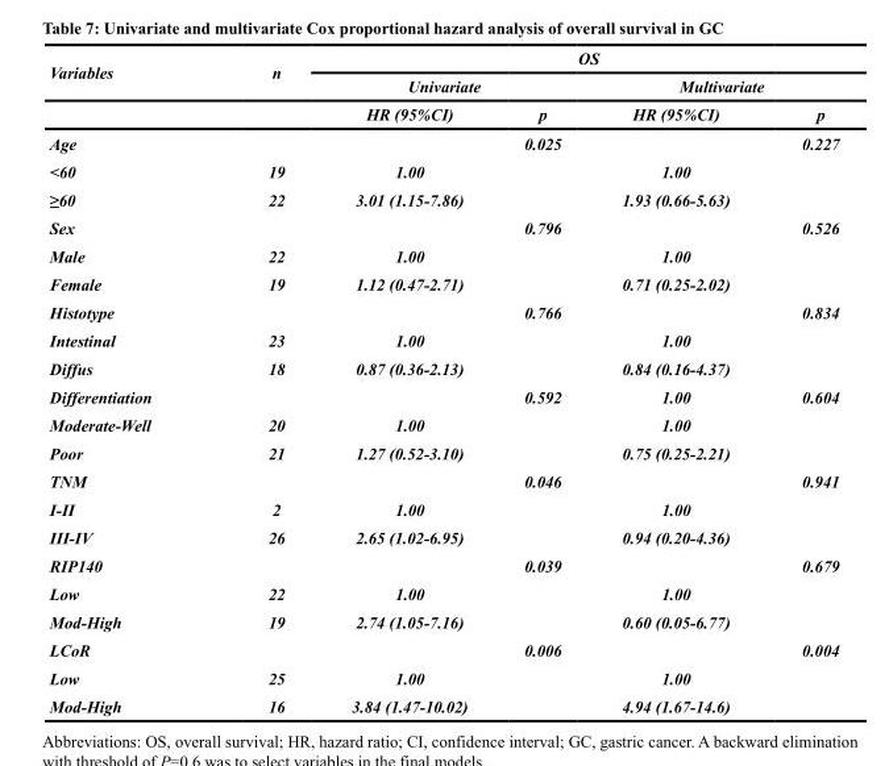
<table><thead><tr><td rowspan="3">Variables</td><td rowspan="3">n</td><td colspan="4">OS</td></tr><tr><td colspan="2">Univariate</td><td colspan="2">Multivariate</td></tr><tr><td>HR (95%CI)</td><td>p</td><td>HR (95%CI)</td><td>p</td></tr></thead><tbody><tr><td>Age</td><td></td><td></td><td>0.025</td><td></td><td>0.227</td></tr><tr><td>&lt;60</td><td>19</td><td>1.00</td><td></td><td>1.00</td><td></td></tr><tr><td>≥60</td><td>22</td><td>3.01 (1.15-7.86)</td><td></td><td>1.93 (0.66-5.63)</td><td></td></tr><tr><td>Sex</td><td></td><td></td><td>0.796</td><td></td><td>0.526</td></tr><tr><td>Male</td><td>22</td><td>1.00</td><td></td><td>1.00</td><td></td></tr><tr><td>Female</td><td>19</td><td>1.12 (0.47-2.71)</td><td></td><td>0.71 (0.25-2.02)</td><td></td></tr><tr><td>Histotype</td><td></td><td></td><td>0.766</td><td></td><td>0.834</td></tr><tr><td>Intestinal</td><td>23</td><td>1.00</td><td></td><td>1.00</td><td></td></tr><tr><td>Diffus</td><td>18</td><td>0.87 (0.36-2.13)</td><td></td><td>0.84 (0.16-4.37)</td><td></td></tr><tr><td>Differentiation</td><td></td><td></td><td>0.592</td><td>1.00</td><td>0.604</td></tr><tr><td>Moderate-Well</td><td>20</td><td>1.00</td><td></td><td>1.00</td><td></td></tr><tr><td>Poor</td><td>21</td><td>1.27 (0.52-3.10)</td><td></td><td>0.75 (0.25-2.21)</td><td></td></tr><tr><td>TNM</td><td></td><td></td><td>0.046</td><td></td><td>0.941</td></tr><tr><td>I-II</td><td>2</td><td>1.00</td><td></td><td>1.00</td><td></td></tr><tr><td>III-IV</td><td>26</td><td>2.65 (1.02-6.95)</td><td></td><td>0.94 (0.20-4.36)</td><td></td></tr><tr><td>RIP140</td><td></td><td></td><td>0.039</td><td></td><td>0.679</td></tr><tr><td>Low</td><td>22</td><td>1.00</td><td></td><td>1.00</td><td></td></tr><tr><td>Mod-High</td><td>19</td><td>2.74 (1.05-7.16)</td><td></td><td>0.60 (0.05-6.77)</td><td></td></tr><tr><td>LCoR</td><td></td><td></td><td>0.006</td><td></td><td>0.004</td></tr><tr><td>Low</td><td>25</td><td>1.00</td><td></td><td>1.00</td><td></td></tr><tr><td>Mod-High</td><td>16</td><td>3.84 (1.47-10.02)</td><td></td><td>4.94 (1.67-14.6)</td><td></td></tr></tbody></table>